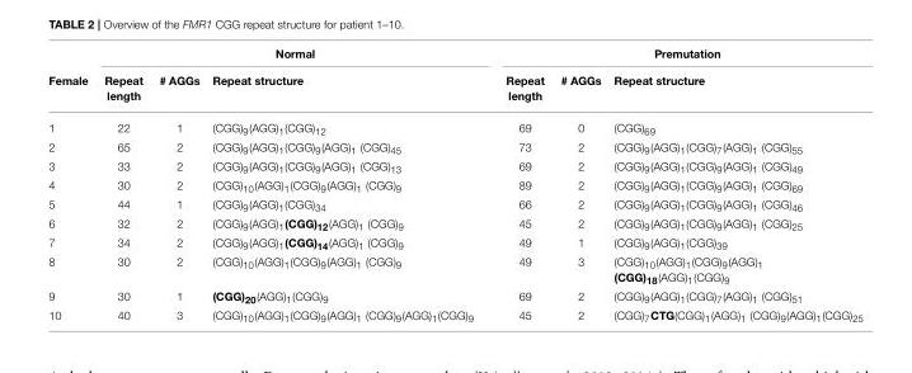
<table><thead><tr><td rowspan="2">Female</td><td colspan="3">Normal</td><td colspan="3">Premutation</td></tr><tr><td>Repeat length</td><td># AGGs</td><td>Repeat structure</td><td>Repeat length</td><td># AGGs</td><td>Repeat structure</td></tr></thead><tbody><tr><td>1</td><td>22</td><td>1</td><td>(CGG)<sub>9</sub>(AGG)<sub>1</sub>(CGG)<sub>12</sub></td><td>69</td><td>0</td><td>(CGG)<sub>69</sub></td></tr><tr><td>2</td><td>65</td><td>2</td><td>(CGG)<sub>9</sub>(AGG)<sub>1</sub>(CGG)<sub>9</sub>(AGG)<sub>1</sub> (CGG)<sub>45</sub></td><td>73</td><td>2</td><td>(CGG)<sub>9</sub>(AGG)<sub>1</sub>(CGG)<sub>7</sub>(AGG)<sub>1</sub> (CGG)<sub>55</sub></td></tr><tr><td>3</td><td>33</td><td>2</td><td>(CGG)<sub>9</sub>(AGG)<sub>1</sub>(CGG)<sub>9</sub>(AGG)<sub>1</sub> (CGG)<sub>13</sub></td><td>69</td><td>2</td><td>(CGG)<sub>9</sub>(AGG)<sub>1</sub>(CGG)<sub>9</sub>(AGG)<sub>1</sub> (CGG)<sub>49</sub></td></tr><tr><td>4</td><td>30</td><td>2</td><td>(CGG)<sub>10</sub>(AGG)<sub>1</sub>(CGG)<sub>9</sub>(AGG)<sub>1</sub> (CGG)<sub>9</sub></td><td>89</td><td>2</td><td>(CGG)<sub>9</sub>(AGG)<sub>1</sub>(CGG)<sub>9</sub>(AGG)<sub>1</sub> (CGG)<sub>69</sub></td></tr><tr><td>5</td><td>44</td><td>1</td><td>(CGG)<sub>9</sub>(AGG)<sub>1</sub>(CGG)<sub>34</sub></td><td>66</td><td>2</td><td>(CGG)<sub>9</sub>(AGG)<sub>1</sub>(CGG)<sub>9</sub>(AGG)<sub>1</sub> (CGG)<sub>46</sub></td></tr><tr><td>6</td><td>32</td><td>2</td><td>(CGG)<sub>9</sub>(AGG)<sub>1</sub>(CGG)<sub>12</sub>(AGG)<sub>1</sub> (CGG)<sub>9</sub></td><td>45</td><td>2</td><td>(CGG)<sub>9</sub>(AGG)<sub>1</sub>(CGG)<sub>9</sub>(AGG)<sub>1</sub> (CGG)<sub>25</sub></td></tr><tr><td>7</td><td>34</td><td>2</td><td>(CGG)<sub>9</sub>(AGG)<sub>1</sub>(CGG)<sub>14</sub>(AGG)<sub>1</sub> (CGG)<sub>9</sub></td><td>49</td><td>1</td><td>(CGG)<sub>9</sub>(AGG)<sub>1</sub>(CGG)<sub>39</sub></td></tr><tr><td>8</td><td>30</td><td>2</td><td>(CGG)<sub>10</sub>(AGG)<sub>1</sub>(CGG)<sub>9</sub>(AGG)<sub>1</sub> (CGG)<sub>9</sub></td><td>49</td><td>3</td><td>(CGG)<sub>10</sub>(AGG)<sub>1</sub>(CGG)<sub>9</sub>(AGG)<sub>1</sub> (CGG)<sub>18</sub>(AGG)<sub>1</sub>(CGG)<sub>9</sub></td></tr><tr><td>9</td><td>30</td><td>1</td><td>(CGG)<sub>20</sub>(AGG)<sub>1</sub>(CGG)<sub>9</sub></td><td>69</td><td>2</td><td>(CGG)<sub>9</sub>(AGG)<sub>1</sub>(CGG)<sub>7</sub>(AGG)<sub>1</sub> (CGG)<sub>51</sub></td></tr><tr><td>10</td><td>40</td><td>3</td><td>(CGG)<sub>10</sub>(AGG)<sub>1</sub>(CGG)<sub>9</sub>(AGG)<sub>1</sub> (CGG)<sub>9</sub>(AGG)<sub>1</sub>(CGG)<sub>9</sub></td><td>45</td><td>2</td><td>(CGG)<sub>7</sub>CTG(CGG)<sub>1</sub>(AGG)<sub>1</sub> (CGG)<sub>9</sub>(AGG)<sub>1</sub>(CGG)<sub>25</sub></td></tr></tbody></table>